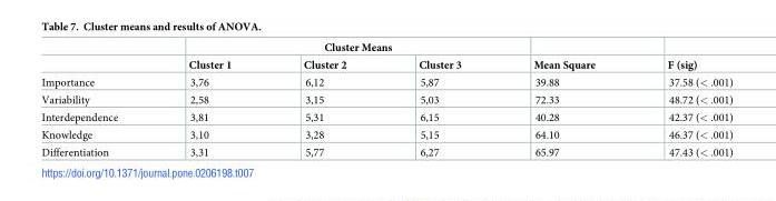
<table><thead><tr><td rowspan="2"></td><td colspan="3">Cluster Means</td><td rowspan="2">Mean Square</td><td rowspan="2">F (sig)</td></tr><tr><td>Cluster 1</td><td>Cluster 2</td><td>Cluster 3</td></tr></thead><tbody><tr><td>Importance</td><td>3,76</td><td>6,12</td><td>5,87</td><td>39.88</td><td>37.58 (&lt; .001)</td></tr><tr><td>Variability</td><td>2,58</td><td>3,15</td><td>5,03</td><td>72.33</td><td>48.72 (&lt; .001)</td></tr><tr><td>Interdependence</td><td>3,81</td><td>5,31</td><td>6,15</td><td>40.28</td><td>42.37 (&lt; .001)</td></tr><tr><td>Knowledge</td><td>3,10</td><td>3,28</td><td>5,15</td><td>64.10</td><td>46.37 (&lt; .001)</td></tr><tr><td>Differentiation</td><td>3,31</td><td>5,77</td><td>6,27</td><td>65.97</td><td>47.43 (&lt; .001)</td></tr></tbody></table>